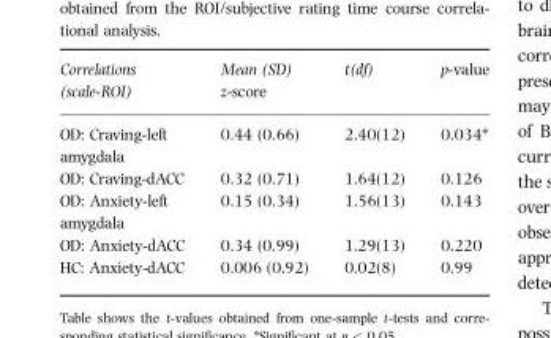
<table><thead><tr><td>Correlations (scale-ROI)</td><td>Mean (SD) z-score</td><td>t(df)</td><td>p-value</td></tr></thead><tbody><tr><td>OD: Craving-left amygdala</td><td>0.44 (0.66)</td><td>2.40(12)</td><td>0.034*</td></tr><tr><td>OD: Craving-dACC</td><td>0.32 (0.71)</td><td>1.64(12)</td><td>0.126</td></tr><tr><td>OD: Anxiety-left amygdala</td><td>0.15 (0.34)</td><td>1.56(13)</td><td>0.143</td></tr><tr><td>OD: Anxiety-dACC</td><td>0.34 (0.99)</td><td>1.29(13)</td><td>0.220</td></tr><tr><td>HC: Anxiety-dACC</td><td>0.006 (0.92)</td><td>0.02(8)</td><td>0.99</td></tr></tbody></table>